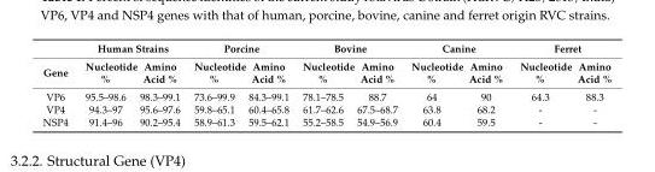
<table><thead><tr><td rowspan="2">Gene</td><td colspan="2">Human Strains</td><td colspan="2">Porcine</td><td colspan="2">Bovine</td><td colspan="2">Canine</td><td colspan="2">Ferret</td></tr><tr><td>Nucleotide %</td><td>Amino Acid %</td><td>Nucleotide %</td><td>Amino Acid %</td><td>Nucleotide %</td><td>Amino Acid %</td><td>Nucleotide %</td><td>Amino Acid %</td><td>Nucleotide %</td><td>Amino Acid %</td></tr></thead><tbody><tr><td>VP6</td><td>95.5–98.6</td><td>98.3–99.1</td><td>73.6–99.9</td><td>84.3–99.1</td><td>78.1–78.5</td><td>88.7</td><td>64</td><td>90</td><td>64.3</td><td>88.3</td></tr><tr><td>VP4</td><td>94.3–97</td><td>95.6–97.6</td><td>59.8–65.1</td><td>60.4–65.8</td><td>61.7–62.6</td><td>67.5–68.7</td><td>63.8</td><td>68.2</td><td>-</td><td>-</td></tr><tr><td>NSP4</td><td>91.4–96</td><td>90.2–95.4</td><td>58.9–61.3</td><td>59.5–62.1</td><td>55.2–58.5</td><td>54.9–56.9</td><td>60.4</td><td>59.5</td><td>-</td><td>-</td></tr></tbody></table>